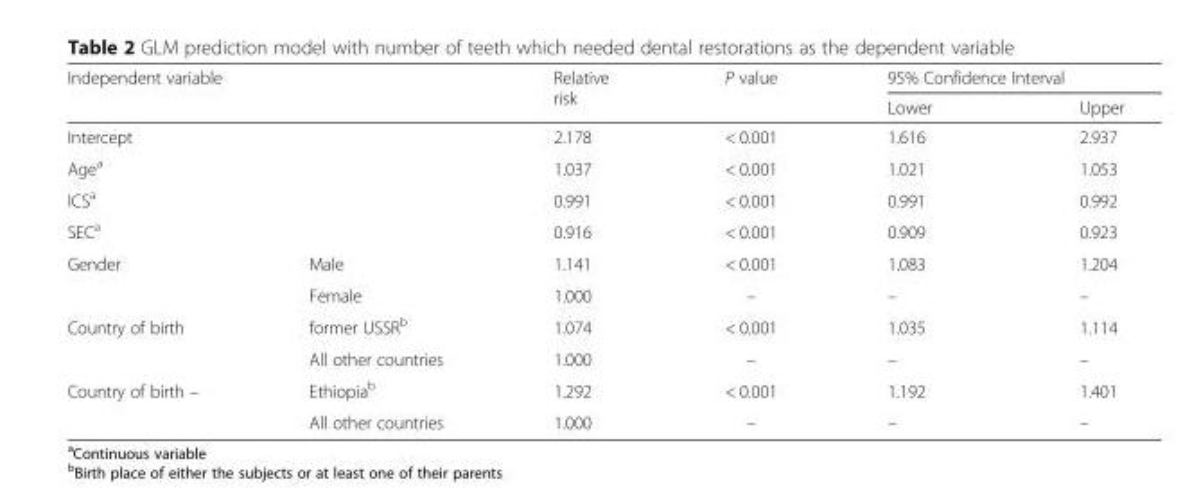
<table><thead><tr><td rowspan="2" colspan="2">Independent variable</td><td rowspan="2">Relative risk</td><td rowspan="2">P value</td><td colspan="2">95% Confidence Interval</td></tr><tr><td>Lower</td><td>Upper</td></tr></thead><tbody><tr><td colspan="2">Intercept</td><td>2.178</td><td>&lt; 0.001</td><td>1.616</td><td>2.937</td></tr><tr><td colspan="2">Age<sup>a</sup></td><td>1.037</td><td>&lt; 0.001</td><td>1.021</td><td>1.053</td></tr><tr><td colspan="2">ICS<sup>a</sup></td><td>0.991</td><td>&lt; 0.001</td><td>0.991</td><td>0.992</td></tr><tr><td colspan="2">SEC<sup>a</sup></td><td>0.916</td><td>&lt; 0.001</td><td>0.909</td><td>0.923</td></tr><tr><td rowspan="2">Gender</td><td>Male</td><td>1.141</td><td>&lt; 0.001</td><td>1.083</td><td>1.204</td></tr><tr><td>Female</td><td>1.000</td><td>–</td><td>–</td><td>–</td></tr><tr><td rowspan="2">Country of birth</td><td>former USSR<sup>b</sup></td><td>1.074</td><td>&lt; 0.001</td><td>1.035</td><td>1.114</td></tr><tr><td>All other countries</td><td>1.000</td><td>–</td><td>–</td><td>–</td></tr><tr><td rowspan="2">Country of birth –</td><td>Ethiopia<sup>b</sup></td><td>1.292</td><td>&lt; 0.001</td><td>1.192</td><td>1.401</td></tr><tr><td>All other countries</td><td>1.000</td><td>–</td><td>–</td><td>–</td></tr></tbody></table>